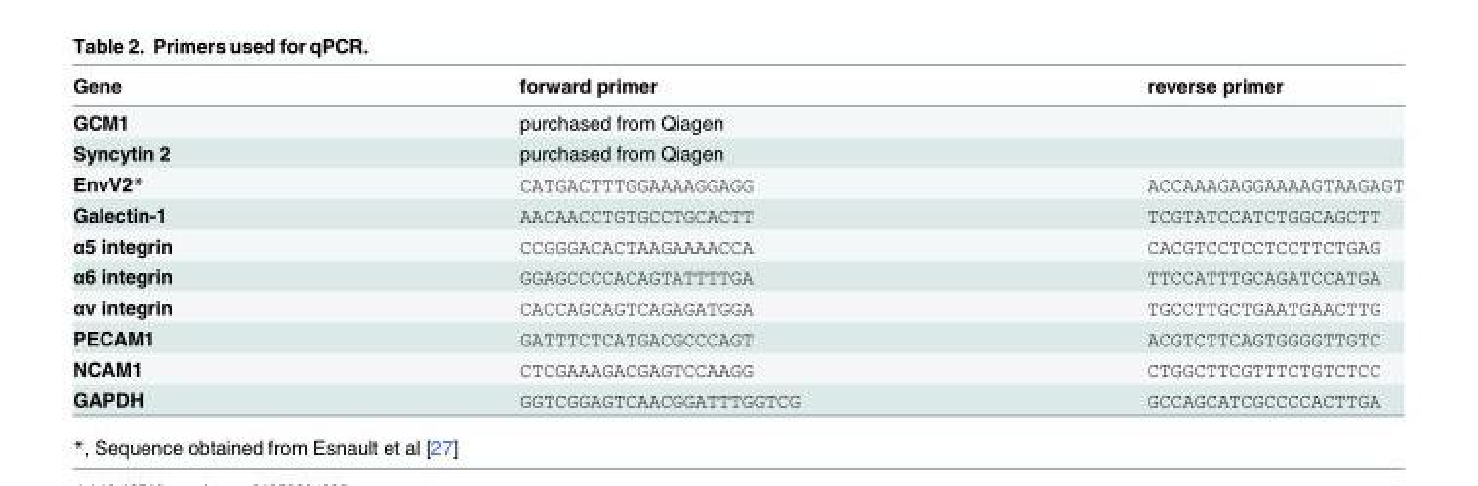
<table><thead><tr><td>Gene</td><td>forward primer</td><td>reverse primer</td></tr></thead><tbody><tr><td>GCM1</td><td>purchased from Qiagen</td><td></td></tr><tr><td>Syncytin 2</td><td>purchased from Qiagen</td><td></td></tr><tr><td>EnvV2*</td><td>CATGACTTTGGAAAAGGAGG</td><td>ACCAAAGAGGAAAAGTAAGAGT</td></tr><tr><td>Galectin-1</td><td>AACAACCTGTGCCTGCACTT</td><td>TCGTATCCATCTGGCAGCTT</td></tr><tr><td>α5 integrin</td><td>CCGGGACACTAAGAAAACCA</td><td>CACGTCCTCCTCCTTCTGAG</td></tr><tr><td>α6 integrin</td><td>GGAGCCCCACAGTATTTTGA</td><td>TTCCATTTGCAGATCCATGA</td></tr><tr><td>αv integrin</td><td>CACCAGCAGTCAGAGATGGA</td><td>TGCCTTGCTGAATGAACTTG</td></tr><tr><td>PECAM1</td><td>GATTTCTCATGACGCCCAGT</td><td>ACGTCTTCAGTGGGGTTGTC</td></tr><tr><td>NCAM1</td><td>CTCGAAAGACGAGTCCAAGG</td><td>CTGGCTTCGTTTCTGTCTCC</td></tr><tr><td>GAPDH</td><td>GGTCGGAGTCAACGGATTTGGTCG</td><td>GCCAGCATCGCCCCACTTGA</td></tr></tbody></table>